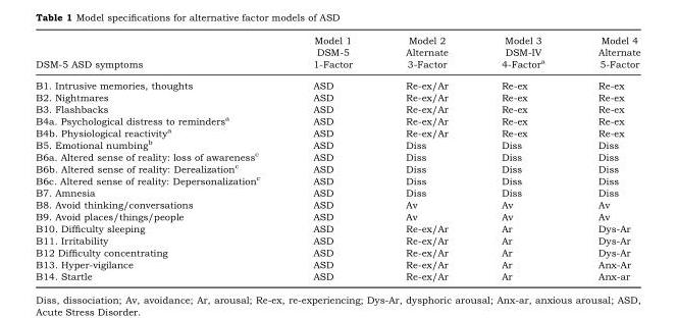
<table><thead><tr><td>DSM-5 ASD symptoms</td><td>Model 1 DSM-5 1-Factor</td><td>Model 2 Alternate 3-Factor</td><td>Model 3 DSM-IV 4-Factor<sup>a</sup></td><td>Model 4 Alternate 5-Factor</td></tr></thead><tbody><tr><td>B1. Intrusive memories, thoughts</td><td>ASD</td><td>Re-ex/Ar</td><td>Re-ex</td><td>Re-ex</td></tr><tr><td>B2. Nightmares</td><td>ASD</td><td>Re-ex/Ar</td><td>Re-ex</td><td>Re-ex</td></tr><tr><td>B3. Flashbacks</td><td>ASD</td><td>Re-ex/Ar</td><td>Re-ex</td><td>Re-ex</td></tr><tr><td>B4a. Psychological distress to reminders<sup>a</sup></td><td>ASD</td><td>Re-ex/Ar</td><td>Re-ex</td><td>Re-ex</td></tr><tr><td>B4b. Physiological reactivity<sup>a</sup></td><td>ASD</td><td>Re-ex/Ar</td><td>Re-ex</td><td>Re-ex</td></tr><tr><td>B5. Emotional numbing<sup>b</sup></td><td>ASD</td><td>Diss</td><td>Diss</td><td>Diss</td></tr><tr><td>B6a. Altered sense of reality: loss of awareness<sup>c</sup></td><td>ASD</td><td>Diss</td><td>Diss</td><td>Diss</td></tr><tr><td>B6b. Altered sense of reality: Derealization<sup>c</sup></td><td>ASD</td><td>Diss</td><td>Diss</td><td>Diss</td></tr><tr><td>B6c. Altered sense of reality: Depersonalization<sup>c</sup></td><td>ASD</td><td>Diss</td><td>Diss</td><td>Diss</td></tr><tr><td>B7. Amnesia</td><td>ASD</td><td>Diss</td><td>Diss</td><td>Diss</td></tr><tr><td>B8. Avoid thinking/conversations</td><td>ASD</td><td>Av</td><td>Av</td><td>Av</td></tr><tr><td>B9. Avoid places/things/people</td><td>ASD</td><td>Av</td><td>Av</td><td>Av</td></tr><tr><td>B10. Difficulty sleeping</td><td>ASD</td><td>Re-ex/Ar</td><td>Ar</td><td>Dys-Ar</td></tr><tr><td>B11. Irritability</td><td>ASD</td><td>Re-ex/Ar</td><td>Ar</td><td>Dys-Ar</td></tr><tr><td>B12 Difficulty concentrating</td><td>ASD</td><td>Re-ex/Ar</td><td>Ar</td><td>Dys-Ar</td></tr><tr><td>B13. Hyper-vigilance</td><td>ASD</td><td>Re-ex/Ar</td><td>Ar</td><td>Anx-Ar</td></tr><tr><td>B14. Startle</td><td>ASD</td><td>Re-ex/Ar</td><td>Ar</td><td>Anx-ar</td></tr></tbody></table>